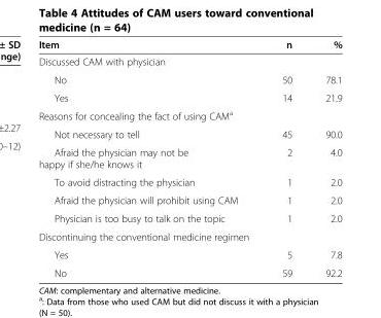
<table><thead><tr><td>Item</td><td>n</td><td>%</td></tr></thead><tbody><tr><td colspan="3">Discussed CAM with physician</td></tr><tr><td>No</td><td>50</td><td>78.1</td></tr><tr><td>Yes</td><td>14</td><td>21.9</td></tr><tr><td colspan="3">Reasons for concealing the fact of using CAM<sup>a</sup></td></tr><tr><td>Not necessary to tell</td><td>45</td><td>90.0</td></tr><tr><td>Afraid the physician may not be happy if she/he knows it</td><td>2</td><td>4.0</td></tr><tr><td>To avoid distracting the physician</td><td>1</td><td>2.0</td></tr><tr><td>Afraid the physician will prohibit using CAM</td><td>1</td><td>2.0</td></tr><tr><td>Physician is too busy to talk on the topic</td><td>1</td><td>2.0</td></tr><tr><td colspan="3">Discontinuing the conventional medicine regimen</td></tr><tr><td>Yes</td><td>5</td><td>7.8</td></tr><tr><td>No</td><td>59</td><td>92.2</td></tr></tbody></table>